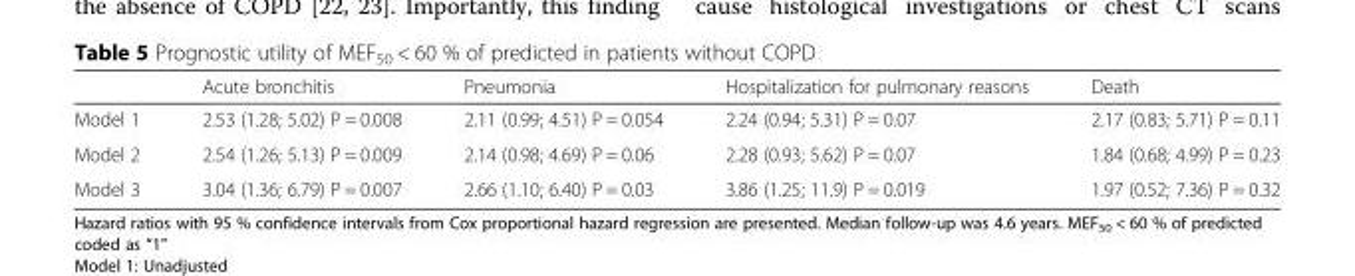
<table><thead><tr><td></td><td>Acute bronchitis</td><td>Pneumonia</td><td>Hospitalization for pulmonary reasons</td><td>Death</td></tr></thead><tbody><tr><td>Model 1</td><td>2.53 (1.28; 5.02) P = 0.008</td><td>2.11 (0.99; 4.51) P = 0.054</td><td>2.24 (0.94; 5.31) P = 0.07</td><td>2.17 (0.83; 5.71) P = 0.11</td></tr><tr><td>Model 2</td><td>2.54 (1.26; 5.13) P = 0.009</td><td>2.14 (0.98; 4.69) P = 0.06</td><td>2.28 (0.93; 5.62) P = 0.07</td><td>1.84 (0.68; 4.99) P = 0.23</td></tr><tr><td>Model 3</td><td>3.04 (1.36; 6.79) P = 0.007</td><td>2.66 (1.10; 6.40) P = 0.03</td><td>3.86 (1.25; 11.9) P = 0.019</td><td>1.97 (0.52; 7.36) P = 0.32</td></tr></tbody></table>